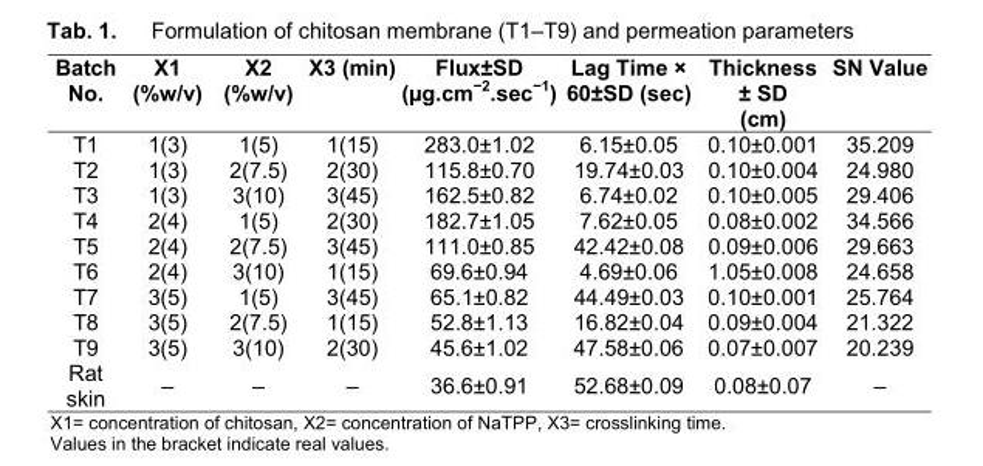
<table><thead><tr><td>Batch No.</td><td>X1 (%w/v)</td><td>X2 (%w/v)</td><td>X3 (min)</td><td>Flux±SD (µg.cm<sup>−2</sup>.sec<sup>−1</sup>)</td><td>Lag Time × 60±SD (sec)</td><td>Thickness ± SD (cm)</td><td>SN Value</td></tr></thead><tbody><tr><td>T1</td><td>1(3)</td><td>1(5)</td><td>1(15)</td><td>283.0±1.02</td><td>6.15±0.05</td><td>0.10±0.001</td><td>35.209</td></tr><tr><td>T2</td><td>1(3)</td><td>2(7.5)</td><td>2(30)</td><td>115.8±0.70</td><td>19.74±0.03</td><td>0.10±0.004</td><td>24.980</td></tr><tr><td>T3</td><td>1(3)</td><td>3(10)</td><td>3(45)</td><td>162.5±0.82</td><td>6.74±0.02</td><td>0.10±0.005</td><td>29.406</td></tr><tr><td>T4</td><td>2(4)</td><td>1(5)</td><td>2(30)</td><td>182.7±1.05</td><td>7.62±0.05</td><td>0.08±0.002</td><td>34.566</td></tr><tr><td>T5</td><td>2(4)</td><td>2(7.5)</td><td>3(45)</td><td>111.0±0.85</td><td>42.42±0.08</td><td>0.09±0.006</td><td>29.663</td></tr><tr><td>T6</td><td>2(4)</td><td>3(10)</td><td>1(15)</td><td>69.6±0.94</td><td>4.69±0.06</td><td>1.05±0.008</td><td>24.658</td></tr><tr><td>T7</td><td>3(5)</td><td>1(5)</td><td>3(45)</td><td>65.1±0.82</td><td>44.49±0.03</td><td>0.10±0.001</td><td>25.764</td></tr><tr><td>T8</td><td>3(5)</td><td>2(7.5)</td><td>1(15)</td><td>52.8±1.13</td><td>16.82±0.04</td><td>0.09±0.004</td><td>21.322</td></tr><tr><td>T9</td><td>3(5)</td><td>3(10)</td><td>2(30)</td><td>45.6±1.02</td><td>47.58±0.06</td><td>0.07±0.007</td><td>20.239</td></tr><tr><td>Rat skin</td><td>–</td><td>–</td><td>–</td><td>36.6±0.91</td><td>52.68±0.09</td><td>0.08±0.07</td><td>–</td></tr></tbody></table>